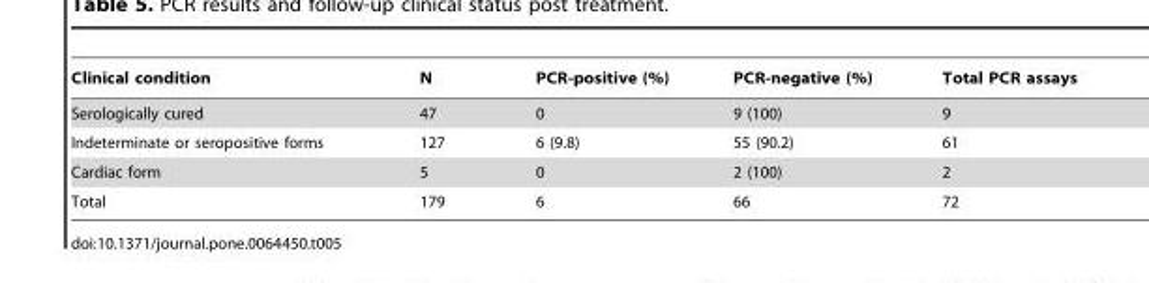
<table><thead><tr><td>Clinical condition</td><td>N</td><td>PCR-positive (%)</td><td>PCR-negative (%)</td><td>Total PCR assays</td></tr></thead><tbody><tr><td>Serologically cured</td><td>47</td><td>0</td><td>9 (100)</td><td>9</td></tr><tr><td>Indeterminate or seropositive forms</td><td>127</td><td>6 (9.8)</td><td>55 (90.2)</td><td>61</td></tr><tr><td>Cardiac form</td><td>5</td><td>0</td><td>2 (100)</td><td>2</td></tr><tr><td>Total</td><td>179</td><td>6</td><td>66</td><td>72</td></tr></tbody></table>